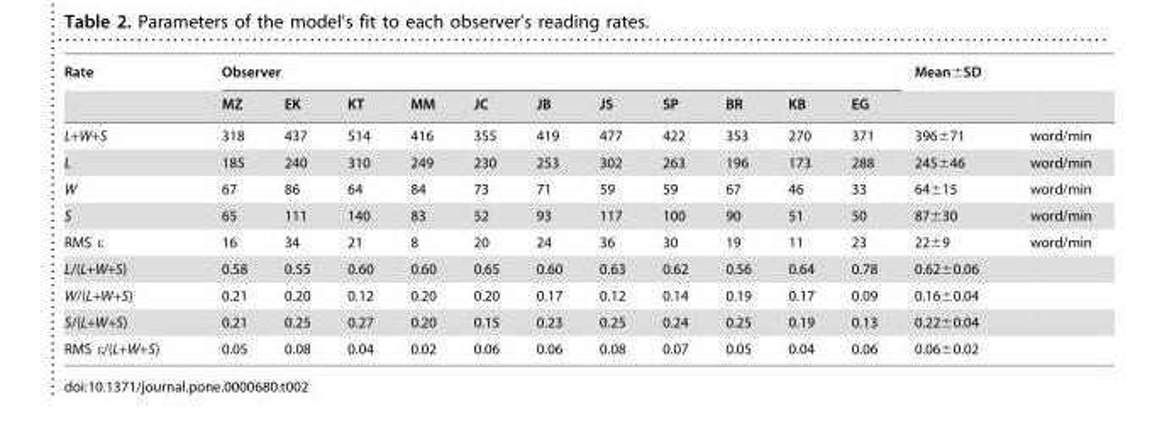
<table><thead><tr><td rowspan="2">Rate</td><td colspan="11">Observer</td><td rowspan="2">Mean±SD</td><td rowspan="2"></td></tr><tr><td>MZ</td><td>EK</td><td>KT</td><td>MM</td><td>JC</td><td>JB</td><td>JS</td><td>SP</td><td>BR</td><td>KB</td><td>EG</td></tr></thead><tbody><tr><td>L+W+S</td><td>318</td><td>437</td><td>514</td><td>416</td><td>355</td><td>419</td><td>477</td><td>422</td><td>353</td><td>270</td><td>371</td><td>396±71</td><td>word/min</td></tr><tr><td>L</td><td>185</td><td>240</td><td>310</td><td>249</td><td>230</td><td>253</td><td>302</td><td>263</td><td>196</td><td>173</td><td>288</td><td>245±46</td><td>word/min</td></tr><tr><td>W</td><td>67</td><td>86</td><td>64</td><td>84</td><td>73</td><td>71</td><td>59</td><td>59</td><td>67</td><td>46</td><td>33</td><td>64±15</td><td>word/min</td></tr><tr><td>S</td><td>65</td><td>111</td><td>140</td><td>83</td><td>52</td><td>93</td><td>117</td><td>100</td><td>90</td><td>51</td><td>50</td><td>87±30</td><td>word/min</td></tr><tr><td>RMS ε</td><td>16</td><td>34</td><td>21</td><td>8</td><td>20</td><td>24</td><td>36</td><td>30</td><td>19</td><td>11</td><td>23</td><td>22±9</td><td>word/min</td></tr><tr><td>L/(L+W+S)</td><td>0.58</td><td>0.55</td><td>0.60</td><td>0.60</td><td>0.65</td><td>0.60</td><td>0.63</td><td>0.62</td><td>0.56</td><td>0.64</td><td>0.78</td><td>0.62±0.06</td><td></td></tr><tr><td>W/(L+W+S)</td><td>0.21</td><td>0.20</td><td>0.12</td><td>0.20</td><td>0.20</td><td>0.17</td><td>0.12</td><td>0.14</td><td>0.19</td><td>0.17</td><td>0.09</td><td>0.16±0.04</td><td></td></tr><tr><td>S/(L+W+S)</td><td>0.21</td><td>0.25</td><td>0.27</td><td>0.20</td><td>0.15</td><td>0.23</td><td>0.25</td><td>0.24</td><td>0.25</td><td>0.19</td><td>0.13</td><td>0.22±0.04</td><td></td></tr><tr><td>RMS ε/(L+W+S)</td><td>0.05</td><td>0.08</td><td>0.04</td><td>0.02</td><td>0.06</td><td>0.06</td><td>0.08</td><td>0.07</td><td>0.05</td><td>0.04</td><td>0.06</td><td>0.06±0.02</td><td></td></tr></tbody></table>